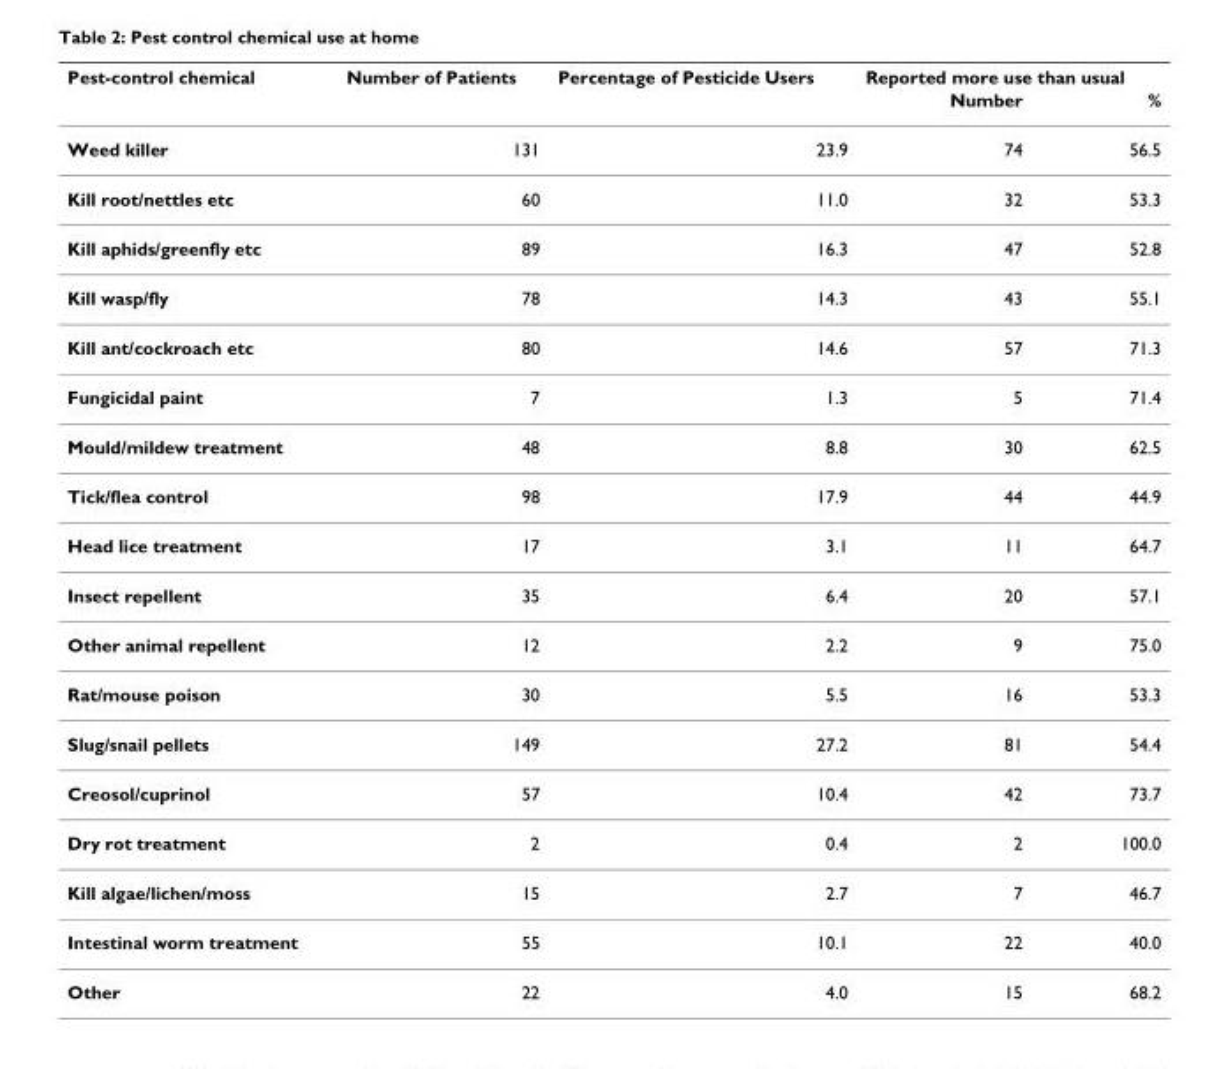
<table><thead><tr><td rowspan="2">Pest-control chemical</td><td rowspan="2">Number of Patients</td><td rowspan="2">Percentage of Pesticide Users</td><td colspan="2">Reported more use than usual</td></tr><tr><td>Number</td><td>%</td></tr></thead><tbody><tr><td>Weed killer</td><td>131</td><td>23.9</td><td>74</td><td>56.5</td></tr><tr><td>Kill root/nettles etc</td><td>60</td><td>11.0</td><td>32</td><td>53.3</td></tr><tr><td>Kill aphids/greenfly etc</td><td>89</td><td>16.3</td><td>47</td><td>52.8</td></tr><tr><td>Kill wasp/fly</td><td>78</td><td>14.3</td><td>43</td><td>55.1</td></tr><tr><td>Kill ant/cockroach etc</td><td>80</td><td>14.6</td><td>57</td><td>71.3</td></tr><tr><td>Fungicidal paint</td><td>7</td><td>1.3</td><td>5</td><td>71.4</td></tr><tr><td>Mould/mildew treatment</td><td>48</td><td>8.8</td><td>30</td><td>62.5</td></tr><tr><td>Tick/flea control</td><td>98</td><td>17.9</td><td>44</td><td>44.9</td></tr><tr><td>Head lice treatment</td><td>17</td><td>3.1</td><td>11</td><td>64.7</td></tr><tr><td>Insect repellent</td><td>35</td><td>6.4</td><td>20</td><td>57.1</td></tr><tr><td>Other animal repellent</td><td>12</td><td>2.2</td><td>9</td><td>75.0</td></tr><tr><td>Rat/mouse poison</td><td>30</td><td>5.5</td><td>16</td><td>53.3</td></tr><tr><td>Slug/snail pellets</td><td>149</td><td>27.2</td><td>81</td><td>54.4</td></tr><tr><td>Creosol/cuprinol</td><td>57</td><td>10.4</td><td>42</td><td>73.7</td></tr><tr><td>Dry rot treatment</td><td>2</td><td>0.4</td><td>2</td><td>100.0</td></tr><tr><td>Kill algae/lichen/moss</td><td>15</td><td>2.7</td><td>7</td><td>46.7</td></tr><tr><td>Intestinal worm treatment</td><td>55</td><td>10.1</td><td>22</td><td>40.0</td></tr><tr><td>Other</td><td>22</td><td>4.0</td><td>15</td><td>68.2</td></tr></tbody></table>